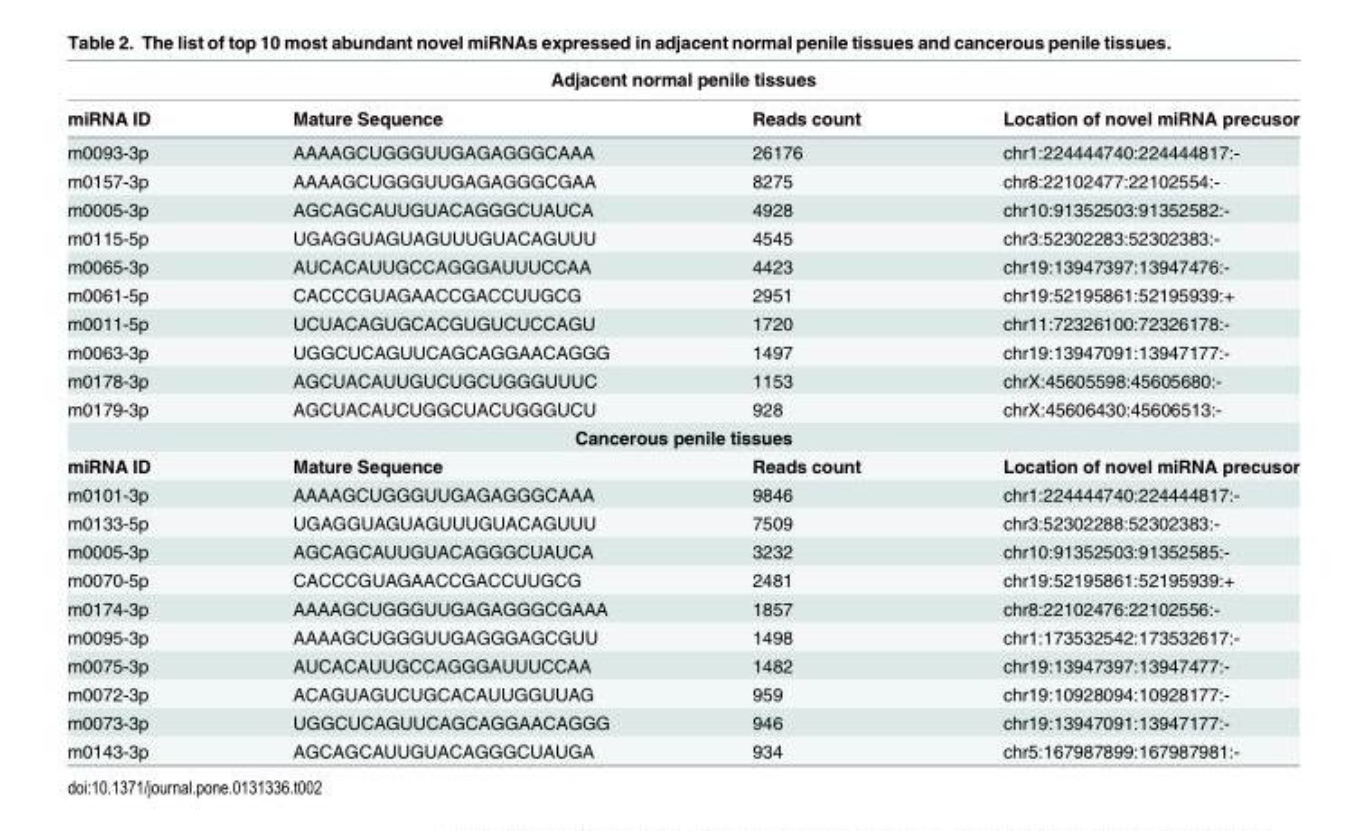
<table><thead><tr><td colspan="4">Adjacent normal penile tissues</td></tr><tr><td>miRNA ID</td><td>Mature Sequence</td><td>Reads count</td><td>Location of novel miRNA precusor</td></tr></thead><tbody><tr><td>m0093-3p</td><td>AAAAGCUGGGUUGAGAGGGCAAA</td><td>26176</td><td>chr1:224444740:224444817:-</td></tr><tr><td>m0157-3p</td><td>AAAAGCUGGGUUGAGAGGGCGAA</td><td>8275</td><td>chr8:22102477:22102554:-</td></tr><tr><td>m0005-3p</td><td>AGCAGCAUUGUACAGGGCUAUCA</td><td>4928</td><td>chr10:91352503:91352582:-</td></tr><tr><td>m0115-5p</td><td>UGAGGUAGUAGUUUGUACAGUUU</td><td>4545</td><td>chr3:52302283:52302383:-</td></tr><tr><td>m0065-3p</td><td>AUCACAUUGCCAGGGAUUUCCAA</td><td>4423</td><td>chr19:13947397:13947476:-</td></tr><tr><td>m0061-5p</td><td>CACCCGUAGAACCGACCUUGCG</td><td>2951</td><td>chr19:52195861:52195939:+</td></tr><tr><td>m0011-5p</td><td>UCUACAGUGCACGUGUCUCCAGU</td><td>1720</td><td>chr11:72326100:72326178:-</td></tr><tr><td>m0063-3p</td><td>UGGCUCAGUUCAGCAGGAACAGGG</td><td>1497</td><td>chr19:13947091:13947177:-</td></tr><tr><td>m0178-3p</td><td>AGCUACAUUGUCUGCUGGGUUUC</td><td>1153</td><td>chrX:45605598:45605680:-</td></tr><tr><td>m0179-3p</td><td>AGCUACAUCUGGCUACUGGGUCU</td><td>928</td><td>chrX:45606430:45606513:-</td></tr><tr><td colspan="4">Cancerous penile tissues</td></tr><tr><td>miRNA ID</td><td>Mature Sequence</td><td>Reads count</td><td>Location of novel miRNA precusor</td></tr><tr><td>m0101-3p</td><td>AAAAGCUGGGUUGAGAGGGCAAA</td><td>9846</td><td>chr1:224444740:224444817:-</td></tr><tr><td>m0133-5p</td><td>UGAGGUAGUAGUUUGUACAGUUU</td><td>7509</td><td>chr3:52302288:52302383:-</td></tr><tr><td>m0005-3p</td><td>AGCAGCAUUGUACAGGGCUAUCA</td><td>3232</td><td>chr10:91352503:91352585:-</td></tr><tr><td>m0070-5p</td><td>CACCCGUAGAACCGACCUUGCG</td><td>2481</td><td>chr19:52195861:52195939:+</td></tr><tr><td>m0174-3p</td><td>AAAAGCUGGGUUGAGAGGGCGAAA</td><td>1857</td><td>chr8:22102476:22102556:-</td></tr><tr><td>m0095-3p</td><td>AAAAGCUGGGUUGAGGGAGCGUU</td><td>1498</td><td>chr1:173532542:173532617:-</td></tr><tr><td>m0075-3p</td><td>AUCACAUUGCCAGGGAUUUCCAA</td><td>1482</td><td>chr19:13947397:13947477:-</td></tr><tr><td>m0072-3p</td><td>ACAGUAGUCUGCACAUUGGUUAG</td><td>959</td><td>chr19:10928094:10928177:-</td></tr><tr><td>m0073-3p</td><td>UGGCUCAGUUCAGCAGGAACAGGG</td><td>946</td><td>chr19:13947091:13947177:-</td></tr><tr><td>m0143-3p</td><td>AGCAGCAUUGUACAGGGCUAUGA</td><td>934</td><td>chr5:167987899:167987981:-</td></tr></tbody></table>